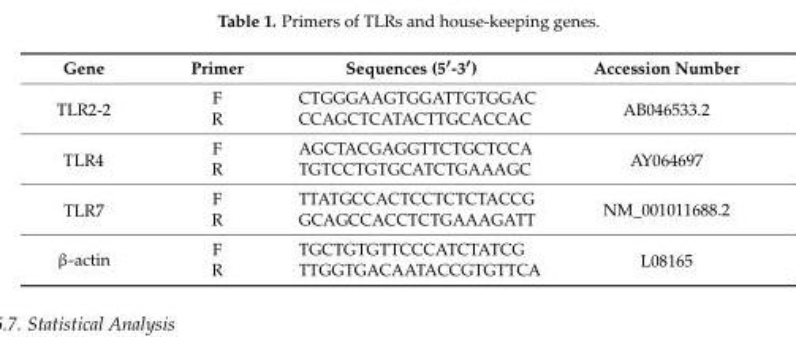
<table><thead><tr><td>Gene</td><td>Primer</td><td>Sequences (5′-3′)</td><td>Accession Number</td></tr></thead><tbody><tr><td rowspan="2">TLR2-2</td><td>F</td><td>CTGGGAAGTGGATTGTGGAC</td><td rowspan="2">AB046533.2</td></tr><tr><td>R</td><td>CCAGCTCATACTTGCACCAC</td></tr><tr><td rowspan="2">TLR4</td><td>F</td><td>AGCTACGAGGTTCTGCTCCA</td><td rowspan="2">AY064697</td></tr><tr><td>R</td><td>TGTCCTGTGCATCTGAAAGC</td></tr><tr><td rowspan="2">TLR7</td><td>F</td><td>TTATGCCACTCCTCTCTACCG</td><td rowspan="2">NM_001011688.2</td></tr><tr><td>R</td><td>GCAGCCACCTCTGAAAGATT</td></tr><tr><td rowspan="2">β-actin</td><td>F</td><td>TGCTGTGTTCCCATCTATCG</td><td rowspan="2">L08165</td></tr><tr><td>R</td><td>TTGGTGACAATACCGTGTTCA</td></tr></tbody></table>